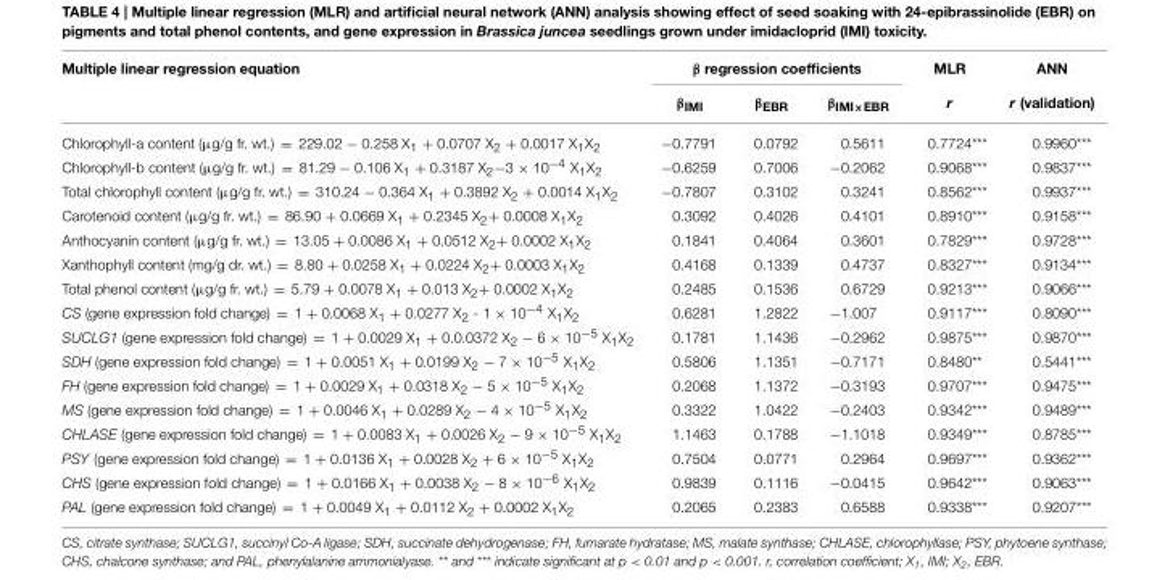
<table><thead><tr><td rowspan="2">Multiple linear regression equation</td><td colspan="3">β regression coefficients</td><td rowspan="2">MLR r</td><td rowspan="2">ANN r (validation)</td></tr><tr><td>β<sub>IMI</sub></td><td>β<sub>EBR</sub></td><td>β<sub>IMI×EBR</sub></td></tr></thead><tbody><tr><td>Chlorophyll-a content (µg/g fr. wt.) = 229.02 − 0.258 X<sub>1</sub> + 0.0707 X<sub>2</sub> + 0.0017 X<sub>1</sub>X<sub>2</sub></td><td>−0.7791</td><td>0.0792</td><td>0.5611</td><td>0.7724***</td><td>0.9960***</td></tr><tr><td>Chlorophyll-b content (µg/g fr. wt.) = 81.29 − 0.106 X<sub>1</sub> + 0.3187 X<sub>2</sub>−3 × 10<sup>−4</sup> X<sub>1</sub>X<sub>2</sub></td><td>−0.6259</td><td>0.7006</td><td>−0.2062</td><td>0.9068***</td><td>0.9837***</td></tr><tr><td>Total chlorophyll content (µg/g fr. wt.) = 310.24 − 0.364 X<sub>1</sub> + 0.3892 X<sub>2</sub> + 0.0014 X<sub>1</sub>X<sub>2</sub></td><td>−0.7807</td><td>0.3102</td><td>0.3241</td><td>0.8562***</td><td>0.9937***</td></tr><tr><td>Carotenoid content (µg/g fr. wt.) = 86.90 + 0.0669 X<sub>1</sub> + 0.2345 X<sub>2</sub>+ 0.0008 X<sub>1</sub>X<sub>2</sub></td><td>0.3092</td><td>0.4026</td><td>0.4101</td><td>0.8910***</td><td>0.9158***</td></tr><tr><td>Anthocyanin content (µg/g fr. wt.) = 13.05 + 0.0086 X<sub>1</sub> + 0.0512 X<sub>2</sub>+ 0.0002 X<sub>1</sub>X<sub>2</sub></td><td>0.1841</td><td>0.4064</td><td>0.3601</td><td>0.7829***</td><td>0.9728***</td></tr><tr><td>Xanthophyll content (mg/g dr. wt.) = 8.80 + 0.0258 X<sub>1</sub> + 0.0224 X<sub>2</sub>+ 0.0003 X<sub>1</sub>X<sub>2</sub></td><td>0.4168</td><td>0.1339</td><td>0.4737</td><td>0.8327***</td><td>0.9134***</td></tr><tr><td>Total phenol content (µg/g fr. wt.) = 5.79 + 0.0078 X<sub>1</sub> + 0.013 X<sub>2</sub>+ 0.0002 X<sub>1</sub>X<sub>2</sub></td><td>0.2485</td><td>0.1536</td><td>0.6729</td><td>0.9213***</td><td>0.9066***</td></tr><tr><td>CS (gene expression fold change) = 1 + 0.0068 X<sub>1</sub> + 0.0277 X<sub>2</sub> - 1 × 10<sup>−4</sup> X<sub>1</sub>X<sub>2</sub></td><td>0.6281</td><td>1.2822</td><td>−1.007</td><td>0.9117***</td><td>0.8090***</td></tr><tr><td>SUCLG1 (gene expression fold change) = 1 + 0.0029 X<sub>1</sub> + 0.0.0372 X<sub>2</sub> − 6 × 10<sup>−5</sup> X<sub>1</sub>X<sub>2</sub></td><td>0.1781</td><td>1.1436</td><td>−0.2962</td><td>0.9875***</td><td>0.9870***</td></tr><tr><td>SDH (gene expression fold change) = 1 + 0.0051 X<sub>1</sub> + 0.0199 X<sub>2</sub> − 7 × 10<sup>−5</sup> X<sub>1</sub>X<sub>2</sub></td><td>0.5806</td><td>1.1351</td><td>−0.7171</td><td>0.8480**</td><td>0.5441***</td></tr><tr><td>FH (gene expression fold change) = 1 + 0.0029 X<sub>1</sub> + 0.0318 X<sub>2</sub> − 5 × 10<sup>−5</sup> X<sub>1</sub>X<sub>2</sub></td><td>0.2068</td><td>1.1372</td><td>−0.3193</td><td>0.9707***</td><td>0.9475***</td></tr><tr><td>MS (gene expression fold change) = 1 + 0.0046 X<sub>1</sub> + 0.0289 X<sub>2</sub> − 4 × 10<sup>−5</sup> X<sub>1</sub>X<sub>2</sub></td><td>0.3322</td><td>1.0422</td><td>−0.2403</td><td>0.9342***</td><td>0.9489***</td></tr><tr><td>CHLASE (gene expression fold change) = 1 + 0.0083 X<sub>1</sub> + 0.0026 X<sub>2</sub> − 9 × 10<sup>−5</sup> X<sub>1</sub>X<sub>2</sub></td><td>1.1463</td><td>0.1788</td><td>−1.1018</td><td>0.9349***</td><td>0.8785***</td></tr><tr><td>PSY (gene expression fold change) = 1 + 0.0136 X<sub>1</sub> + 0.0028 X<sub>2</sub> + 6 × 10<sup>−5</sup> X<sub>1</sub>X<sub>2</sub></td><td>0.7504</td><td>0.0771</td><td>0.2964</td><td>0.9697***</td><td>0.9362***</td></tr><tr><td>CHS (gene expression fold change) = 1 + 0.0166 X<sub>1</sub> + 0.0038 X<sub>2</sub> − 8 × 10<sup>−6</sup> X<sub>1</sub>X<sub>2</sub></td><td>0.9839</td><td>0.1116</td><td>−0.0415</td><td>0.9642***</td><td>0.9063***</td></tr><tr><td>PAL (gene expression fold change) = 1 + 0.0049 X<sub>1</sub> + 0.0112 X<sub>2</sub> + 0.0002 X<sub>1</sub>X<sub>2</sub></td><td>0.2065</td><td>0.2383</td><td>0.6588</td><td>0.9338***</td><td>0.9207***</td></tr></tbody></table>